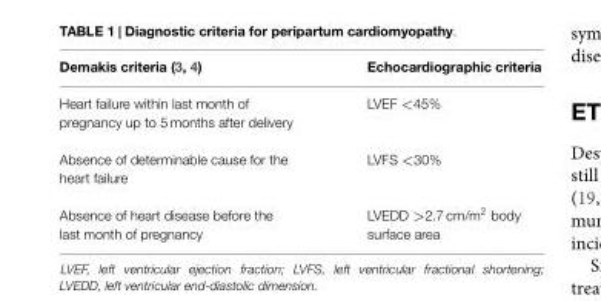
<table><thead><tr><td>Demakis criteria (3, 4)</td><td>Echocardiographic criteria</td></tr></thead><tbody><tr><td>Heart failure within last month of pregnancy up to 5 months after delivery</td><td>LVEF &lt;45%</td></tr><tr><td>Absence of determinable cause for the heart failure</td><td>LVFS &lt;30%</td></tr><tr><td>Absence of heart disease before the last month of pregnancy</td><td>LVEDD &gt;2.7 cm/m<sup>2</sup> body surface area</td></tr></tbody></table>